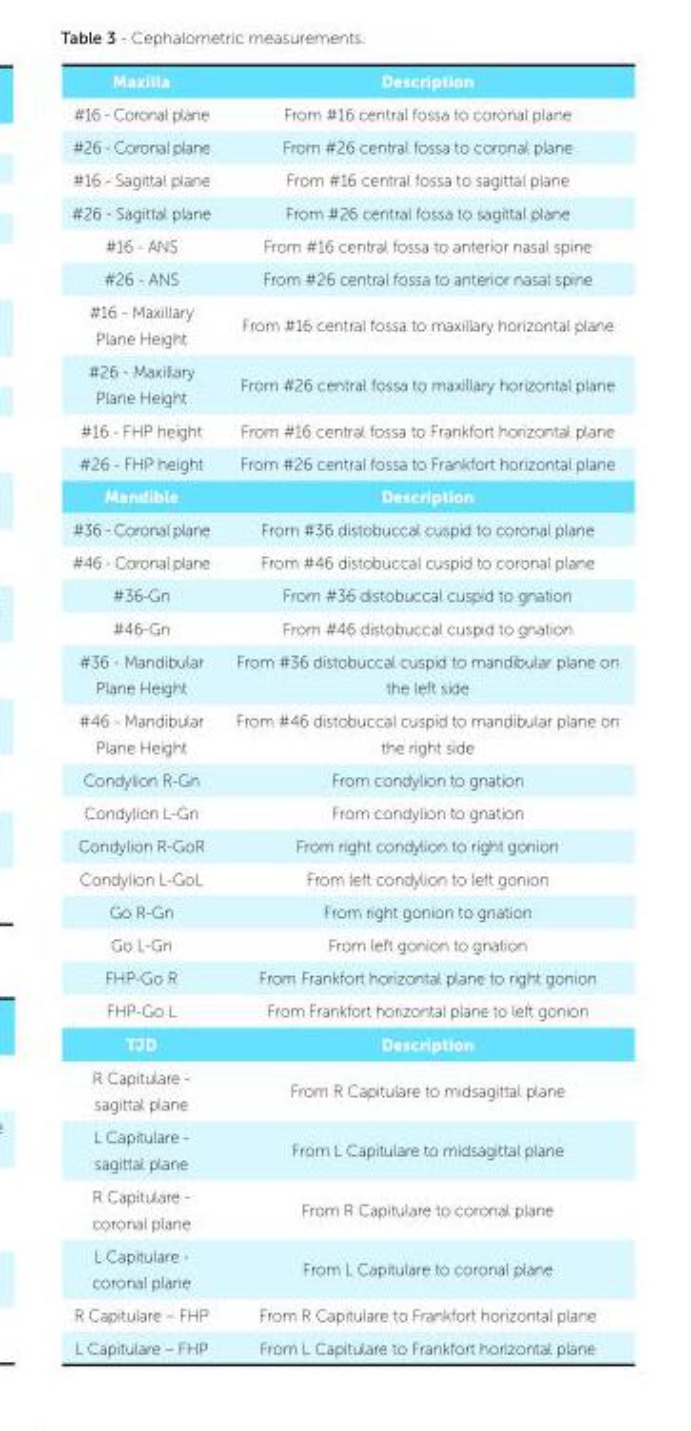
<table><thead><tr><td>Maxilla</td><td>Description</td></tr></thead><tbody><tr><td>#16 - Coronal plane</td><td>From #16 central fossa to coronal plane</td></tr><tr><td>#26 - Coronal plane</td><td>From #26 central fossa to coronal plane</td></tr><tr><td>#16 - Sagittal plane</td><td>From #16 central fossa to sagittal plane</td></tr><tr><td>#26 - Sagittal plane</td><td>From #26 central fossa to sagittal plane</td></tr><tr><td>#16 - ANS</td><td>From #16 central fossa to anterior nasal spine</td></tr><tr><td>#26 - ANS</td><td>From #26 central fossa to anterior nasal spine</td></tr><tr><td>#16 - Maxillary Plane Height</td><td>From #16 central fossa to maxillary horizontal plane</td></tr><tr><td>#26 - Maxillary Plane Height</td><td>From #26 central fossa to maxillary horizontal plane</td></tr><tr><td>#16 - FHP height</td><td>From #16 central fossa to Frankfort horizontal plane</td></tr><tr><td>#26 - FHP height</td><td>From #26 central fossa to Frankfort horizontal plane</td></tr><tr><td>Mandible</td><td>Description</td></tr><tr><td>#36 - Coronal plane</td><td>From #36 distobuccal cuspid to coronal plane</td></tr><tr><td>#46 - Coronal plane</td><td>From #46 distobuccal cuspid to coronal plane</td></tr><tr><td>#36-Gn</td><td>From #36 distobuccal cuspid to gnation</td></tr><tr><td>#46-Gn</td><td>From #46 distobuccal cuspid to gnation</td></tr><tr><td>#36 - Mandibular Plane Height</td><td>From #36 distobuccal cuspid to mandibular plane on the left side</td></tr><tr><td>#46 - Mandibular Plane Height</td><td>From #46 distobuccal cuspid to mandibular plane on the right side</td></tr><tr><td>Condylion R-Gn</td><td>From condylion to gnation</td></tr><tr><td>Condylion L-Gn</td><td>From condylion to gnation</td></tr><tr><td>Condylion R-GoR</td><td>From right condylion to right gonion</td></tr><tr><td>Condylion L-GoL</td><td>From left condylion to left gonion</td></tr><tr><td>Go R-Gn</td><td>From right gonion to gnation</td></tr><tr><td>Go L-Gn</td><td>From left gonion to gnation</td></tr><tr><td>FHP-Go R</td><td>From Frankfort horizontal plane to right gonion</td></tr><tr><td>FHP-Go L</td><td>From Frankfort horizontal plane to left gonion</td></tr><tr><td>TJD</td><td>Description</td></tr><tr><td>R Capitulare - sagittal plane</td><td>From R Capitulare to midsagittal plane</td></tr><tr><td>L Capitulare - sagittal plane</td><td>From L Capitulare to midsagittal plane</td></tr><tr><td>R Capitulare - coronal plane</td><td>From R Capitulare to coronal plane</td></tr><tr><td>L Capitulare - coronal plane</td><td>From L Capitulare to coronal plane</td></tr><tr><td>R Capitulare – FHP</td><td>From R Capitulare to Frankfort horizontal plane</td></tr><tr><td>L Capitulare – FHP</td><td>From L Capitulare to Frankfort horizontal plane</td></tr></tbody></table>